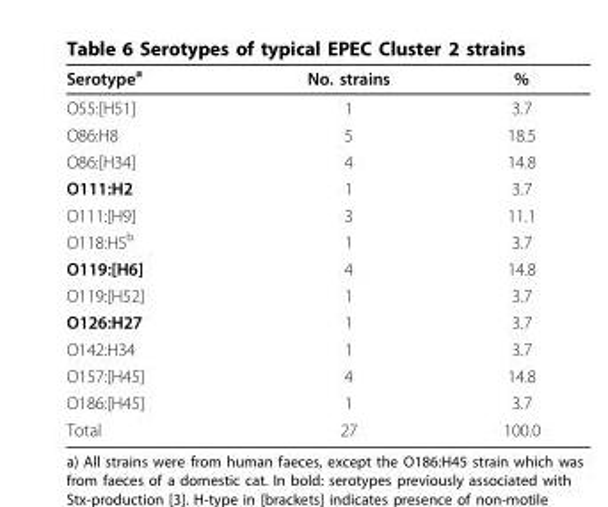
<table><thead><tr><td>Serotype<sup>a</sup></td><td>No. strains</td><td>%</td></tr></thead><tbody><tr><td>O55:[H51]</td><td>1</td><td>3.7</td></tr><tr><td>O86:H8</td><td>5</td><td>18.5</td></tr><tr><td>O86:[H34]</td><td>4</td><td>14.8</td></tr><tr><td>O111:H2</td><td>1</td><td>3.7</td></tr><tr><td>O111:[H9]</td><td>3</td><td>11.1</td></tr><tr><td>O118:H5<sup>b</sup></td><td>1</td><td>3.7</td></tr><tr><td>O119:[H6]</td><td>4</td><td>14.8</td></tr><tr><td>O119:[H52]</td><td>1</td><td>3.7</td></tr><tr><td>O126:H27</td><td>1</td><td>3.7</td></tr><tr><td>O142:H34</td><td>1</td><td>3.7</td></tr><tr><td>O157:[H45]</td><td>4</td><td>14.8</td></tr><tr><td>O186:[H45]</td><td>1</td><td>3.7</td></tr><tr><td>Total</td><td>27</td><td>100.0</td></tr></tbody></table>